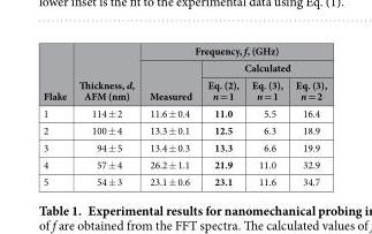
<table><thead><tr><td rowspan="3">Flake</td><td rowspan="3">Thickness, d, AFM (nm)</td><td colspan="4">Frequency, f, (GHz)</td></tr><tr><td rowspan="2">Measured</td><td colspan="3">Calculated</td></tr><tr><td>Eq. (2), n = 1</td><td>Eq. (3), n = 1</td><td>Eq. (3), n = 2</td></tr></thead><tbody><tr><td>1</td><td>114 ± 2</td><td>11.6 ± 0.4</td><td>11.0</td><td>5.5</td><td>16.4</td></tr><tr><td>2</td><td>100 ± 4</td><td>13.3 ± 0.1</td><td>12.5</td><td>6.3</td><td>18.9</td></tr><tr><td>3</td><td>94 ± 5</td><td>13.4 ± 0.3</td><td>13.3</td><td>6.6</td><td>19.9</td></tr><tr><td>4</td><td>57 ± 4</td><td>26.2 ± 1.1</td><td>21.9</td><td>11.0</td><td>32.9</td></tr><tr><td>5</td><td>54 ± 3</td><td>23.1 ± 0.6</td><td>23.1</td><td>11.6</td><td>34.7</td></tr></tbody></table>